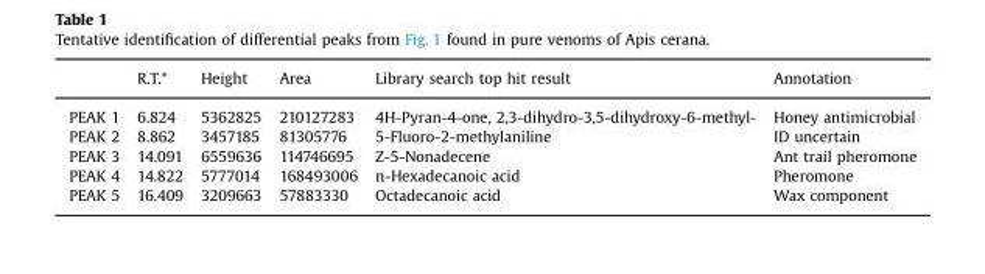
<table><thead><tr><td></td><td>R.T.*</td><td>Height</td><td>Area</td><td>Library search top hit result</td><td>Annotation</td></tr></thead><tbody><tr><td>PEAK 1</td><td>6.824</td><td>5362825</td><td>210127283</td><td>4H-Pyran-4-one, 2,3-dihydro-3,5-dihydroxy-6-methyl-</td><td>Honey antimicrobial</td></tr><tr><td>PEAK 2</td><td>8.862</td><td>3457185</td><td>81305776</td><td>5-Fluoro-2-methylaniline</td><td>ID uncertain</td></tr><tr><td>PEAK 3</td><td>14.091</td><td>6559636</td><td>114746695</td><td>Z-5-Nonadecene</td><td>Ant trail pheromone</td></tr><tr><td>PEAK 4</td><td>14.822</td><td>5777014</td><td>168493006</td><td>n-Hexadecanoic acid</td><td>Pheromone</td></tr><tr><td>PEAK 5</td><td>16.409</td><td>3209663</td><td>57883330</td><td>Octadecanoic acid</td><td>Wax component</td></tr></tbody></table>